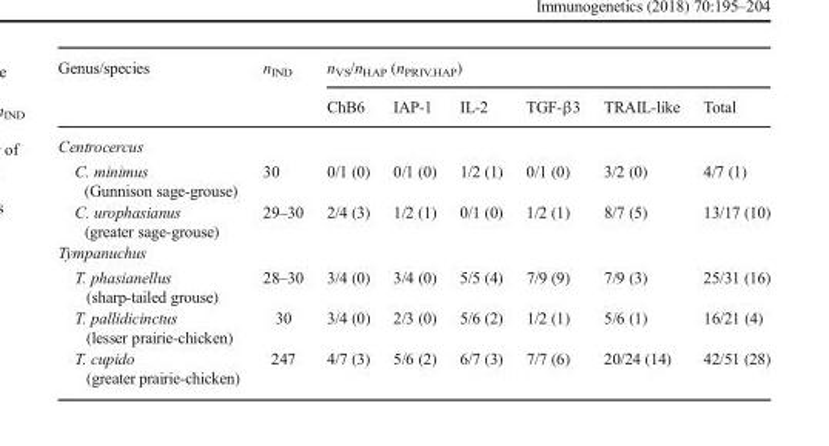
<table><thead><tr><td rowspan="2">Genus/species</td><td rowspan="2">n<sub>IND</sub></td><td colspan="6">n<sub>VS</sub>/n<sub>HAP</sub> (n<sub>PRIV.HAP</sub>)</td></tr><tr><td>ChB6</td><td>IAP-1</td><td>IL-2</td><td>TGF-β3</td><td>TRAIL-like</td><td>Total</td></tr></thead><tbody><tr><td colspan="8">Centrocercus</td></tr><tr><td>C. minimus (Gunnison sage-grouse)</td><td>30</td><td>0/1 (0)</td><td>0/1 (0)</td><td>1/2 (1)</td><td>0/1 (0)</td><td>3/2 (0)</td><td>4/7 (1)</td></tr><tr><td>C. urophasianus (greater sage-grouse)</td><td>29–30</td><td>2/4 (3)</td><td>1/2 (1)</td><td>0/1 (0)</td><td>1/2 (1)</td><td>8/7 (5)</td><td>13/17 (10)</td></tr><tr><td colspan="8">Tympanuchus</td></tr><tr><td>T. phasianellus (sharp-tailed grouse)</td><td>28–30</td><td>3/4 (0)</td><td>3/4 (0)</td><td>5/5 (4)</td><td>7/9 (9)</td><td>7/9 (3)</td><td>25/31 (16)</td></tr><tr><td>T. pallidicinctus (lesser prairie-chicken)</td><td>30</td><td>3/4 (0)</td><td>2/3 (0)</td><td>5/6 (2)</td><td>1/2 (1)</td><td>5/6 (1)</td><td>16/21 (4)</td></tr><tr><td>T. cupido (greater prairie-chicken)</td><td>247</td><td>4/7 (3)</td><td>5/6 (2)</td><td>6/7 (3)</td><td>7/7 (6)</td><td>20/24 (14)</td><td>42/51 (28)</td></tr></tbody></table>